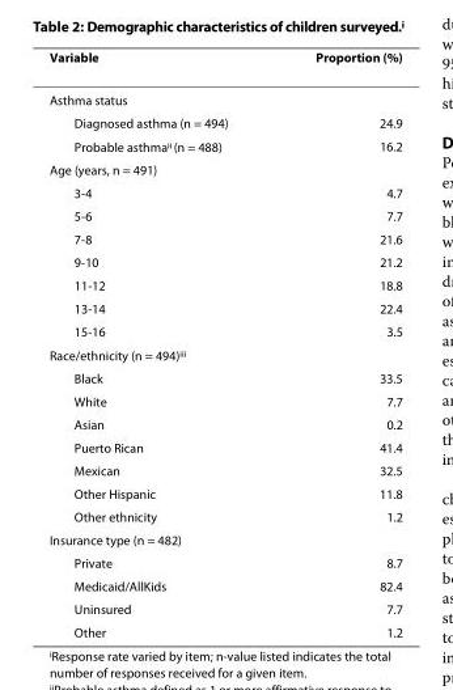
<table><thead><tr><td>Variable</td><td>Proportion (%)</td></tr></thead><tbody><tr><td colspan="2">Asthma status</td></tr><tr><td>Diagnosed asthma (n = 494)</td><td>24.9</td></tr><tr><td>Probable asthma<sup>ii</sup> (n = 488)</td><td>16.2</td></tr><tr><td colspan="2">Age (years, n = 491)</td></tr><tr><td>3-4</td><td>4.7</td></tr><tr><td>5-6</td><td>7.7</td></tr><tr><td>7-8</td><td>21.6</td></tr><tr><td>9-10</td><td>21.2</td></tr><tr><td>11-12</td><td>18.8</td></tr><tr><td>13-14</td><td>22.4</td></tr><tr><td>15-16</td><td>3.5</td></tr><tr><td colspan="2">Race/ethnicity (n = 494)<sup>iii</sup></td></tr><tr><td>Black</td><td>33.5</td></tr><tr><td>White</td><td>7.7</td></tr><tr><td>Asian</td><td>0.2</td></tr><tr><td>Puerto Rican</td><td>41.4</td></tr><tr><td>Mexican</td><td>32.5</td></tr><tr><td>Other Hispanic</td><td>11.8</td></tr><tr><td>Other ethnicity</td><td>1.2</td></tr><tr><td colspan="2">Insurance type (n = 482)</td></tr><tr><td>Private</td><td>8.7</td></tr><tr><td>Medicaid/AllKids</td><td>82.4</td></tr><tr><td>Uninsured</td><td>7.7</td></tr><tr><td>Other</td><td>1.2</td></tr></tbody></table>